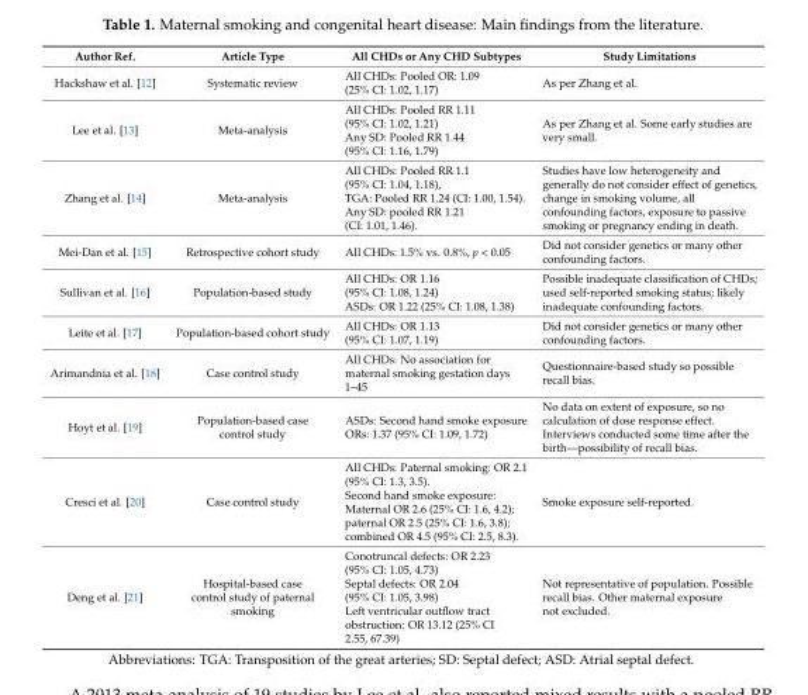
<table><thead><tr><td>Author Ref.</td><td>Article Type</td><td>All CHDs or Any CHD Subtypes</td><td>Study Limitations</td></tr></thead><tbody><tr><td>Hackshaw et al. [12]</td><td>Systematic review</td><td>All CHDs: Pooled OR: 1.09 (25% CI: 1.02, 1.17)</td><td>As per Zhang et al.</td></tr><tr><td>Lee et al. [13]</td><td>Meta-analysis</td><td>All CHDs: Pooled RR 1.11 (95% CI: 1.02, 1.21) Any SD: Pooled RR 1.44 (95% CI: 1.16, 1.79)</td><td>As per Zhang et al. Some early studies are very small.</td></tr><tr><td>Zhang et al. [14]</td><td>Meta-analysis</td><td>All CHDs: Pooled RR 1.1 (95% CI: 1.04, 1.18), TGA: Pooled RR 1.24 (CI: 1.00, 1.54). Any SD: pooled RR 1.21 (CI: 1.01, 1.46).</td><td>Studies have low heterogeneity and generally do not consider effect of genetics, change in smoking volume, all confounding factors, exposure to passive smoking or pregnancy ending in death.</td></tr><tr><td>Mei-Dan et al. [15]</td><td>Retrospective cohort study</td><td>All CHDs: 1.5% vs. 0.8%, p &lt; 0.05</td><td>Did not consider genetics or many other confounding factors.</td></tr><tr><td>Sullivan et al. [16]</td><td>Population-based study</td><td>All CHDs: OR 1.16 (95% CI: 1.08, 1.24) ASDs: OR 1.22 (25% CI: 1.08, 1.38)</td><td>Possible inadequate classification of CHDs; used self-reported smoking status; likely inadequate confounding factors.</td></tr><tr><td>Leite et al. [17]</td><td>Population-based cohort study</td><td>All CHDs: OR 1.13 (95% CI: 1.07, 1.19)</td><td>Did not consider genetics or many other confounding factors.</td></tr><tr><td>Arimandnia et al. [18]</td><td>Case control study</td><td>All CHDs: No association for maternal smoking gestation days 1–45</td><td>Questionnaire-based study so possible recall bias.</td></tr><tr><td>Hoyt et al. [19]</td><td>Population-based case control study</td><td>ASDs: Second hand smoke exposure ORs: 1.37 (95% CI: 1.09, 1.72)</td><td>No data on extent of exposure, so no calculation of dose response effect. Interviews conducted some time after the birth—possibility of recall bias.</td></tr><tr><td>Cresci et al. [20]</td><td>Case control study</td><td>All CHDs: Paternal smoking: OR 2.1 (95% CI: 1.3, 3.5). Second hand smoke exposure: Maternal OR 2.6 (25% CI: 1.6, 4.2); paternal OR 2.5 (25% CI: 1.6, 3.8); combined OR 4.5 (95% CI: 2.5, 8.3).</td><td>Smoke exposure self-reported.</td></tr><tr><td>Deng et al. [21]</td><td>Hospital-based case control study of paternal smoking</td><td>Conotruncal defects: OR 2.23 (95% CI: 1.05, 4.73) Septal defects: OR 2.04 (95% CI: 1.05, 3.98) Left ventricular outflow tract obstruction: OR 13.12 (25% CI 2.55, 67.39)</td><td>Not representative of population. Possible recall bias. Other maternal exposure not excluded.</td></tr></tbody></table>